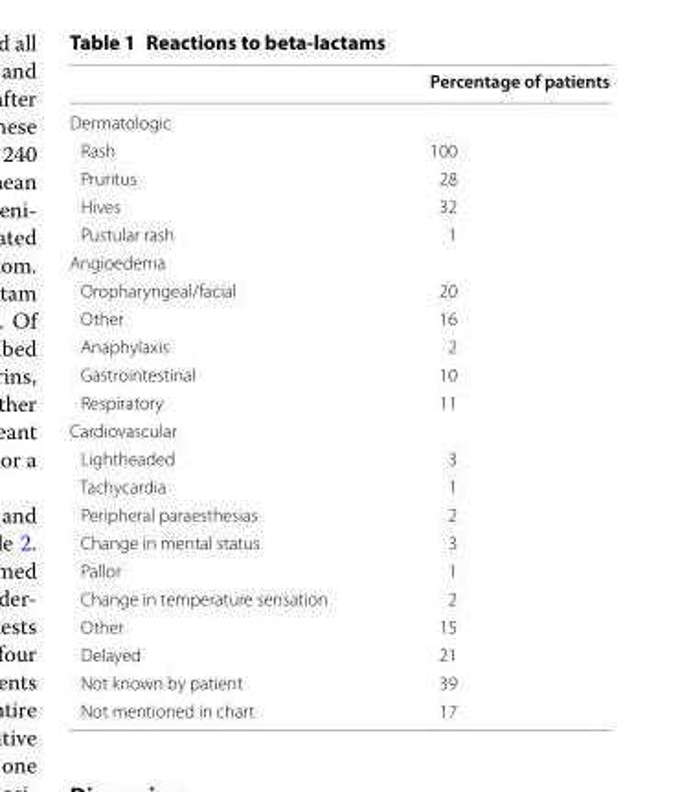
<table><thead><tr><td></td><td>Percentage of patients</td></tr></thead><tbody><tr><td colspan="2">Dermatologic</td></tr><tr><td>Rash</td><td>100</td></tr><tr><td>Pruritus</td><td>28</td></tr><tr><td>Hives</td><td>32</td></tr><tr><td>Pustular rash</td><td>1</td></tr><tr><td colspan="2">Angioedema</td></tr><tr><td>Oropharyngeal/facial</td><td>20</td></tr><tr><td>Other</td><td>16</td></tr><tr><td>Anaphylaxis</td><td>2</td></tr><tr><td>Gastrointestinal</td><td>10</td></tr><tr><td>Respiratory</td><td>11</td></tr><tr><td colspan="2">Cardiovascular</td></tr><tr><td>Lightheaded</td><td>3</td></tr><tr><td>Tachycardia</td><td>1</td></tr><tr><td>Peripheral paraesthesias</td><td>2</td></tr><tr><td>Change in mental status</td><td>3</td></tr><tr><td>Pallor</td><td>1</td></tr><tr><td>Change in temperature sensation</td><td>2</td></tr><tr><td>Other</td><td>15</td></tr><tr><td>Delayed</td><td>21</td></tr><tr><td>Not known by patient</td><td>39</td></tr><tr><td>Not mentioned in chart</td><td>17</td></tr></tbody></table>